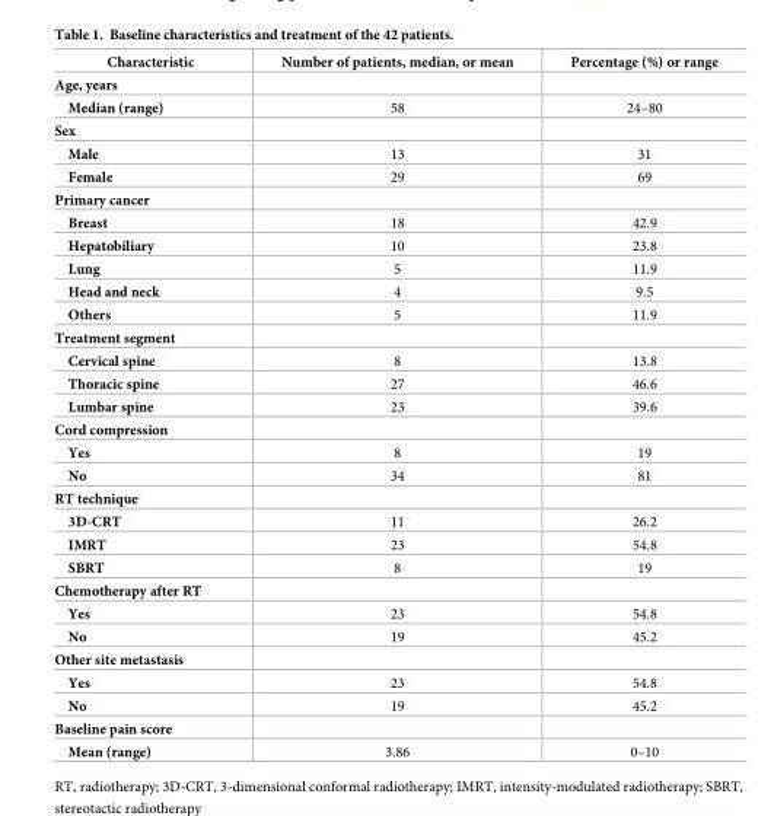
<table><thead><tr><td>Characteristic</td><td>Number of patients, median, or mean</td><td>Percentage (%) or range</td></tr></thead><tbody><tr><td colspan="3">Age, years</td></tr><tr><td>Median (range)</td><td>58</td><td>24–80</td></tr><tr><td colspan="3">Sex</td></tr><tr><td>Male</td><td>13</td><td>31</td></tr><tr><td>Female</td><td>29</td><td>69</td></tr><tr><td colspan="3">Primary cancer</td></tr><tr><td>Breast</td><td>18</td><td>42.9</td></tr><tr><td>Hepatobiliary</td><td>10</td><td>23.8</td></tr><tr><td>Lung</td><td>5</td><td>11.9</td></tr><tr><td>Head and neck</td><td>4</td><td>9.5</td></tr><tr><td>Others</td><td>5</td><td>11.9</td></tr><tr><td colspan="3">Treatment segment</td></tr><tr><td>Cervical spine</td><td>8</td><td>13.8</td></tr><tr><td>Thoracic spine</td><td>27</td><td>46.6</td></tr><tr><td>Lumbar spine</td><td>23</td><td>39.6</td></tr><tr><td colspan="3">Cord compression</td></tr><tr><td>Yes</td><td>8</td><td>19</td></tr><tr><td>No</td><td>34</td><td>81</td></tr><tr><td colspan="3">RT technique</td></tr><tr><td>3D-CRT</td><td>11</td><td>26.2</td></tr><tr><td>IMRT</td><td>23</td><td>54.8</td></tr><tr><td>SBRT</td><td>8</td><td>19</td></tr><tr><td colspan="3">Chemotherapy after RT</td></tr><tr><td>Yes</td><td>23</td><td>54.8</td></tr><tr><td>No</td><td>19</td><td>45.2</td></tr><tr><td colspan="3">Other site metastasis</td></tr><tr><td>Yes</td><td>23</td><td>54.8</td></tr><tr><td>No</td><td>19</td><td>45.2</td></tr><tr><td colspan="3">Baseline pain score</td></tr><tr><td>Mean (range)</td><td>3.86</td><td>0–10</td></tr></tbody></table>